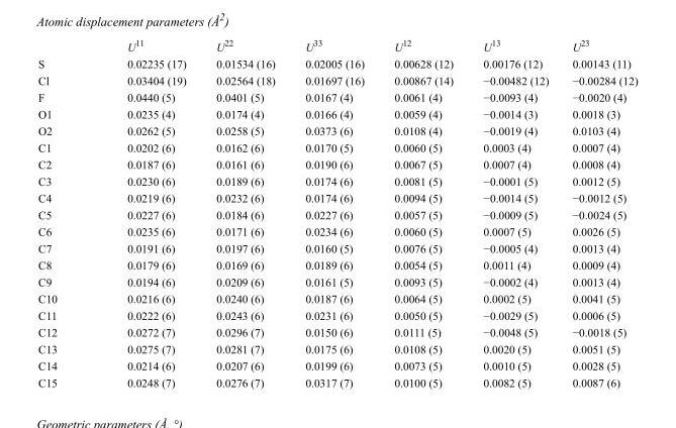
<table><thead><tr><td></td><td>U<sup>11</sup></td><td>U<sup>22</sup></td><td>U<sup>33</sup></td><td>U<sup>12</sup></td><td>U<sup>13</sup></td><td>U<sup>23</sup></td></tr></thead><tbody><tr><td>S</td><td>0.02235 (17)</td><td>0.01534 (16)</td><td>0.02005 (16)</td><td>0.00628 (12)</td><td>0.00176 (12)</td><td>0.00143 (11)</td></tr><tr><td>Cl</td><td>0.03404 (19)</td><td>0.02564 (18)</td><td>0.01697 (16)</td><td>0.00867 (14)</td><td>−0.00482 (12)</td><td>−0.00284 (12)</td></tr><tr><td>F</td><td>0.0440 (5)</td><td>0.0401 (5)</td><td>0.0167 (4)</td><td>0.0061 (4)</td><td>−0.0093 (4)</td><td>−0.0020 (4)</td></tr><tr><td>O1</td><td>0.0235 (4)</td><td>0.0174 (4)</td><td>0.0166 (4)</td><td>0.0059 (4)</td><td>−0.0014 (3)</td><td>0.0018 (3)</td></tr><tr><td>O2</td><td>0.0262 (5)</td><td>0.0258 (5)</td><td>0.0373 (6)</td><td>0.0108 (4)</td><td>−0.0019 (4)</td><td>0.0103 (4)</td></tr><tr><td>C1</td><td>0.0202 (6)</td><td>0.0162 (6)</td><td>0.0170 (5)</td><td>0.0060 (5)</td><td>0.0003 (4)</td><td>0.0007 (4)</td></tr><tr><td>C2</td><td>0.0187 (6)</td><td>0.0161 (6)</td><td>0.0190 (6)</td><td>0.0067 (5)</td><td>0.0007 (4)</td><td>0.0008 (4)</td></tr><tr><td>C3</td><td>0.0230 (6)</td><td>0.0189 (6)</td><td>0.0174 (6)</td><td>0.0081 (5)</td><td>−0.0001 (5)</td><td>0.0012 (5)</td></tr><tr><td>C4</td><td>0.0219 (6)</td><td>0.0232 (6)</td><td>0.0174 (6)</td><td>0.0094 (5)</td><td>−0.0014 (5)</td><td>−0.0012 (5)</td></tr><tr><td>C5</td><td>0.0227 (6)</td><td>0.0184 (6)</td><td>0.0227 (6)</td><td>0.0057 (5)</td><td>−0.0009 (5)</td><td>−0.0024 (5)</td></tr><tr><td>C6</td><td>0.0235 (6)</td><td>0.0171 (6)</td><td>0.0234 (6)</td><td>0.0060 (5)</td><td>0.0007 (5)</td><td>0.0026 (5)</td></tr><tr><td>C7</td><td>0.0191 (6)</td><td>0.0197 (6)</td><td>0.0160 (5)</td><td>0.0076 (5)</td><td>−0.0005 (4)</td><td>0.0013 (4)</td></tr><tr><td>C8</td><td>0.0179 (6)</td><td>0.0169 (6)</td><td>0.0189 (6)</td><td>0.0054 (5)</td><td>0.0011 (4)</td><td>0.0009 (4)</td></tr><tr><td>C9</td><td>0.0194 (6)</td><td>0.0209 (6)</td><td>0.0161 (5)</td><td>0.0093 (5)</td><td>−0.0002 (4)</td><td>0.0013 (4)</td></tr><tr><td>C10</td><td>0.0216 (6)</td><td>0.0240 (6)</td><td>0.0187 (6)</td><td>0.0064 (5)</td><td>0.0002 (5)</td><td>0.0041 (5)</td></tr><tr><td>C11</td><td>0.0222 (6)</td><td>0.0243 (6)</td><td>0.0231 (6)</td><td>0.0050 (5)</td><td>−0.0029 (5)</td><td>0.0006 (5)</td></tr><tr><td>C12</td><td>0.0272 (7)</td><td>0.0296 (7)</td><td>0.0150 (6)</td><td>0.0111 (5)</td><td>−0.0048 (5)</td><td>−0.0018 (5)</td></tr><tr><td>C13</td><td>0.0275 (7)</td><td>0.0281 (7)</td><td>0.0175 (6)</td><td>0.0108 (5)</td><td>0.0020 (5)</td><td>0.0051 (5)</td></tr><tr><td>C14</td><td>0.0214 (6)</td><td>0.0207 (6)</td><td>0.0199 (6)</td><td>0.0073 (5)</td><td>0.0010 (5)</td><td>0.0028 (5)</td></tr><tr><td>C15</td><td>0.0248 (7)</td><td>0.0276 (7)</td><td>0.0317 (7)</td><td>0.0100 (5)</td><td>0.0082 (5)</td><td>0.0087 (6)</td></tr></tbody></table>